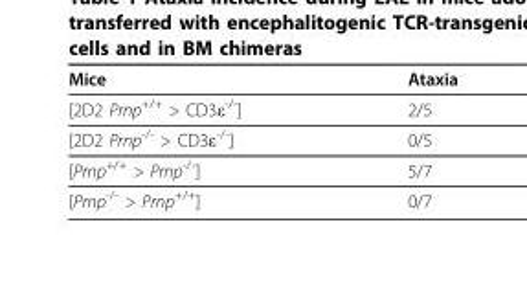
<table><thead><tr><td>Mice</td><td>Ataxia</td></tr></thead><tbody><tr><td>[2D2 Prnp<sup>+/+</sup> &gt; CD3ε<sup>-/-</sup>]</td><td>2/5</td></tr><tr><td>[2D2 Prnp<sup>-/-</sup> &gt; CD3ε<sup>-/-</sup>]</td><td>0/5</td></tr><tr><td>[Prnp<sup>+/+</sup> &gt; Prnp<sup>-/-</sup>]</td><td>5/7</td></tr><tr><td>[Prnp<sup>-/-</sup> &gt; Prnp<sup>+/+</sup>]</td><td>0/7</td></tr></tbody></table>